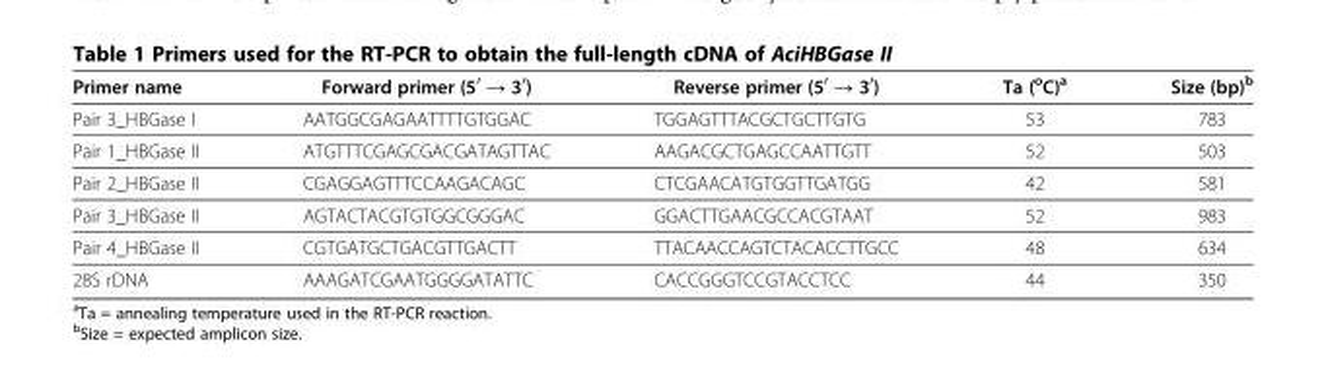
<table><thead><tr><td>Primer name</td><td>Forward primer (5<sup>′</sup> → 3<sup>′</sup>)</td><td>Reverse primer (5<sup>′</sup> → 3<sup>′</sup>)</td><td>Ta (<sup>o</sup>C)<sup>a</sup></td><td>Size (bp)<sup>b</sup></td></tr></thead><tbody><tr><td>Pair 3_HBGase I</td><td>AATGGCGAGAATTTTGTGGAC</td><td>TGGAGTTTACGCTGCTTGTG</td><td>53</td><td>783</td></tr><tr><td>Pair 1_HBGase II</td><td>ATGTTTCGAGCGACGATAGTTAC</td><td>AAGACGCTGAGCCAATTGTT</td><td>52</td><td>503</td></tr><tr><td>Pair 2_HBGase II</td><td>CGAGGAGTTTCCAAGACAGC</td><td>CTCGAACATGTGGTTGATGG</td><td>42</td><td>581</td></tr><tr><td>Pair 3_HBGase II</td><td>AGTACTACGTGTGGCGGGAC</td><td>GGACTTGAACGCCACGTAAT</td><td>52</td><td>983</td></tr><tr><td>Pair 4_HBGase II</td><td>CGTGATGCTGACGTTGACTT</td><td>TTACAACCAGTCTACACCTTGCC</td><td>48</td><td>634</td></tr><tr><td>28S rDNA</td><td>AAAGATCGAATGGGGATATTC</td><td>CACCGGGTCCGTACCTCC</td><td>44</td><td>350</td></tr></tbody></table>